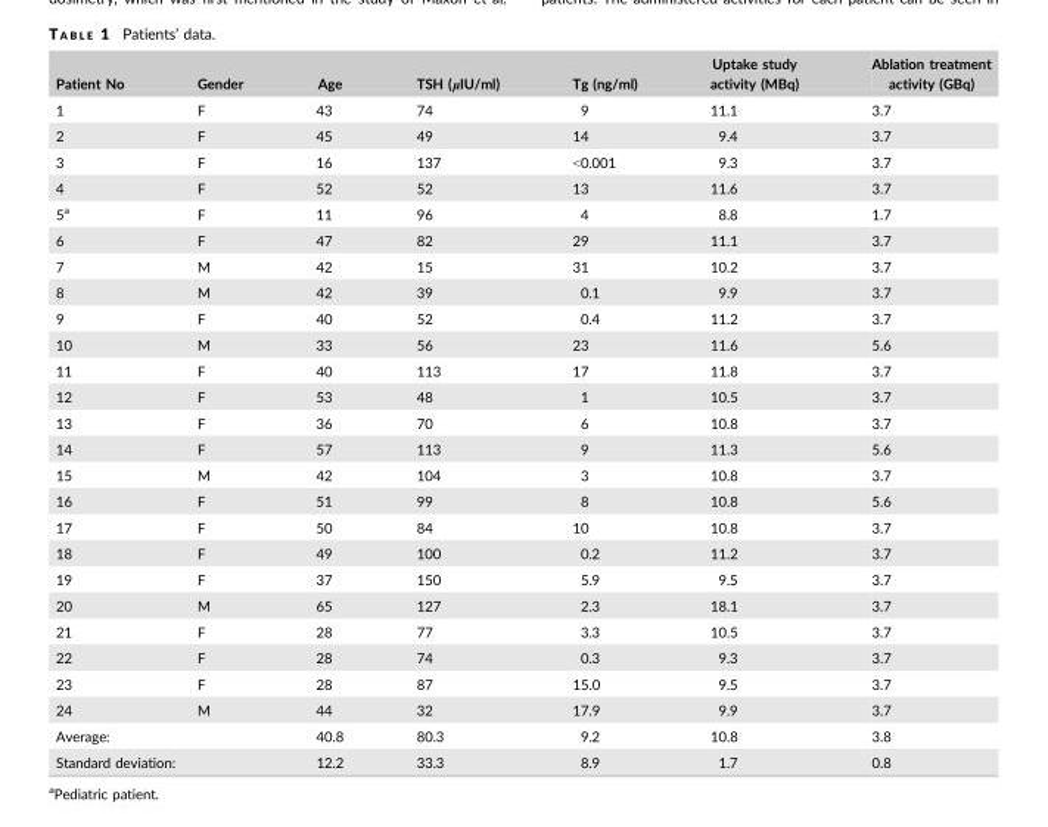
<table><thead><tr><td>Patient No</td><td>Gender</td><td>Age</td><td>TSH (μIU/ml)</td><td>Tg (ng/ml)</td><td>Uptake study activity (MBq)</td><td>Ablation treatment activity (GBq)</td></tr></thead><tbody><tr><td>1</td><td>F</td><td>43</td><td>74</td><td>9</td><td>11.1</td><td>3.7</td></tr><tr><td>2</td><td>F</td><td>45</td><td>49</td><td>14</td><td>9.4</td><td>3.7</td></tr><tr><td>3</td><td>F</td><td>16</td><td>137</td><td>&lt;0.001</td><td>9.3</td><td>3.7</td></tr><tr><td>4</td><td>F</td><td>52</td><td>52</td><td>13</td><td>11.6</td><td>3.7</td></tr><tr><td>5<sup>a</sup></td><td>F</td><td>11</td><td>96</td><td>4</td><td>8.8</td><td>1.7</td></tr><tr><td>6</td><td>F</td><td>47</td><td>82</td><td>29</td><td>11.1</td><td>3.7</td></tr><tr><td>7</td><td>M</td><td>42</td><td>15</td><td>31</td><td>10.2</td><td>3.7</td></tr><tr><td>8</td><td>M</td><td>42</td><td>39</td><td>0.1</td><td>9.9</td><td>3.7</td></tr><tr><td>9</td><td>F</td><td>40</td><td>52</td><td>0.4</td><td>11.2</td><td>3.7</td></tr><tr><td>10</td><td>M</td><td>33</td><td>56</td><td>23</td><td>11.6</td><td>5.6</td></tr><tr><td>11</td><td>F</td><td>40</td><td>113</td><td>17</td><td>11.8</td><td>3.7</td></tr><tr><td>12</td><td>F</td><td>53</td><td>48</td><td>1</td><td>10.5</td><td>3.7</td></tr><tr><td>13</td><td>F</td><td>36</td><td>70</td><td>6</td><td>10.8</td><td>3.7</td></tr><tr><td>14</td><td>F</td><td>57</td><td>113</td><td>9</td><td>11.3</td><td>5.6</td></tr><tr><td>15</td><td>M</td><td>42</td><td>104</td><td>3</td><td>10.8</td><td>3.7</td></tr><tr><td>16</td><td>F</td><td>51</td><td>99</td><td>8</td><td>10.8</td><td>5.6</td></tr><tr><td>17</td><td>F</td><td>50</td><td>84</td><td>10</td><td>10.8</td><td>3.7</td></tr><tr><td>18</td><td>F</td><td>49</td><td>100</td><td>0.2</td><td>11.2</td><td>3.7</td></tr><tr><td>19</td><td>F</td><td>37</td><td>150</td><td>5.9</td><td>9.5</td><td>3.7</td></tr><tr><td>20</td><td>M</td><td>65</td><td>127</td><td>2.3</td><td>18.1</td><td>3.7</td></tr><tr><td>21</td><td>F</td><td>28</td><td>77</td><td>3.3</td><td>10.5</td><td>3.7</td></tr><tr><td>22</td><td>F</td><td>28</td><td>74</td><td>0.3</td><td>9.3</td><td>3.7</td></tr><tr><td>23</td><td>F</td><td>28</td><td>87</td><td>15.0</td><td>9.5</td><td>3.7</td></tr><tr><td>24</td><td>M</td><td>44</td><td>32</td><td>17.9</td><td>9.9</td><td>3.7</td></tr><tr><td colspan="2">Average:</td><td>40.8</td><td>80.3</td><td>9.2</td><td>10.8</td><td>3.8</td></tr><tr><td colspan="2">Standard deviation:</td><td>12.2</td><td>33.3</td><td>8.9</td><td>1.7</td><td>0.8</td></tr></tbody></table>